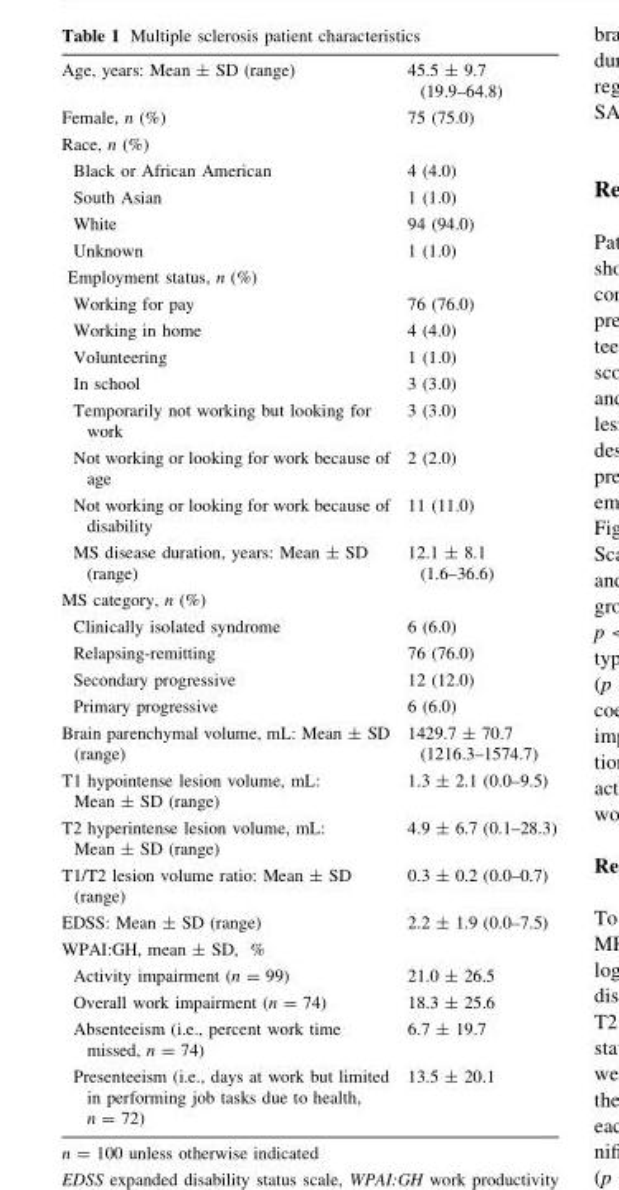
<table><tbody><tr><td>Age, years: Mean ± SD (range)</td><td>45.5 ± 9.7 (19.9–64.8)</td></tr><tr><td>Female, n (%)</td><td>75 (75.0)</td></tr><tr><td colspan="2">Race, n (%)</td></tr><tr><td>Black or African American</td><td>4 (4.0)</td></tr><tr><td>South Asian</td><td>1 (1.0)</td></tr><tr><td>White</td><td>94 (94.0)</td></tr><tr><td>Unknown</td><td>1 (1.0)</td></tr><tr><td colspan="2">Employment status, n (%)</td></tr><tr><td>Working for pay</td><td>76 (76.0)</td></tr><tr><td>Working in home</td><td>4 (4.0)</td></tr><tr><td>Volunteering</td><td>1 (1.0)</td></tr><tr><td>In school</td><td>3 (3.0)</td></tr><tr><td>Temporarily not working but looking for work</td><td>3 (3.0)</td></tr><tr><td>Not working or looking for work because of age</td><td>2 (2.0)</td></tr><tr><td>Not working or looking for work because of disability</td><td>11 (11.0)</td></tr><tr><td>MS disease duration, years: Mean ± SD (range)</td><td>12.1 ± 8.1 (1.6–36.6)</td></tr><tr><td colspan="2">MS category, n (%)</td></tr><tr><td>Clinically isolated syndrome</td><td>6 (6.0)</td></tr><tr><td>Relapsing-remitting</td><td>76 (76.0)</td></tr><tr><td>Secondary progressive</td><td>12 (12.0)</td></tr><tr><td>Primary progressive</td><td>6 (6.0)</td></tr><tr><td>Brain parenchymal volume, mL: Mean ± SD (range)</td><td>1429.7 ± 70.7 (1216.3–1574.7)</td></tr><tr><td>T1 hypointense lesion volume, mL: Mean ± SD (range)</td><td>1.3 ± 2.1 (0.0–9.5)</td></tr><tr><td>T2 hyperintense lesion volume, mL: Mean ± SD (range)</td><td>4.9 ± 6.7 (0.1–28.3)</td></tr><tr><td>T1/T2 lesion volume ratio: Mean ± SD (range)</td><td>0.3 ± 0.2 (0.0–0.7)</td></tr><tr><td>EDSS: Mean ± SD (range)</td><td>2.2 ± 1.9 (0.0–7.5)</td></tr><tr><td colspan="2">WPAI:GH, mean ± SD, %</td></tr><tr><td>Activity impairment (n = 99)</td><td>21.0 ± 26.5</td></tr><tr><td>Overall work impairment (n = 74)</td><td>18.3 ± 25.6</td></tr><tr><td>Absenteeism (i.e., percent work time missed, n = 74)</td><td>6.7 ± 19.7</td></tr><tr><td>Presenteeism (i.e., days at work but limited in performing job tasks due to health, n = 72)</td><td>13.5 ± 20.1</td></tr></tbody></table>